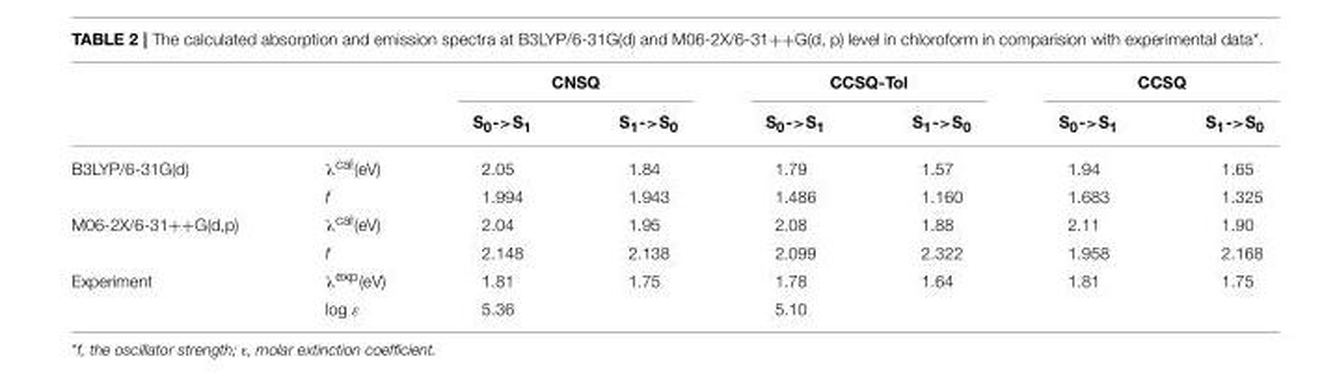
<table><thead><tr><td rowspan="2"></td><td rowspan="2"></td><td colspan="2">CNSQ</td><td colspan="2">CCSQ-Tol</td><td colspan="2">CCSQ</td></tr><tr><td>S<sub>0</sub>-&gt;S<sub>1</sub></td><td>S<sub>1</sub>-&gt;S<sub>0</sub></td><td>S<sub>0</sub>-&gt;S<sub>1</sub></td><td>S<sub>1</sub>-&gt;S<sub>0</sub></td><td>S<sub>0</sub>-&gt;S<sub>1</sub></td><td>S<sub>1</sub>-&gt;S<sub>0</sub></td></tr></thead><tbody><tr><td rowspan="2">B3LYP/6-31G(d)</td><td>λ<sup>cal</sup>(eV)</td><td>2.05</td><td>1.84</td><td>1.79</td><td>1.57</td><td>1.94</td><td>1.65</td></tr><tr><td>f</td><td>1.994</td><td>1.943</td><td>1.486</td><td>1.160</td><td>1.683</td><td>1.325</td></tr><tr><td rowspan="2">M06-2X/6-31++G(d,p)</td><td>λ<sup>cal</sup>(eV)</td><td>2.04</td><td>1.95</td><td>2.08</td><td>1.88</td><td>2.11</td><td>1.90</td></tr><tr><td>f</td><td>2.148</td><td>2.138</td><td>2.099</td><td>2.322</td><td>1.958</td><td>2.168</td></tr><tr><td rowspan="2">Experiment</td><td>λ<sup>exp</sup>(eV)</td><td>1.81</td><td>1.75</td><td>1.78</td><td>1.64</td><td>1.81</td><td>1.75</td></tr><tr><td>log ε</td><td>5.36</td><td></td><td>5.10</td><td></td><td></td><td></td></tr></tbody></table>